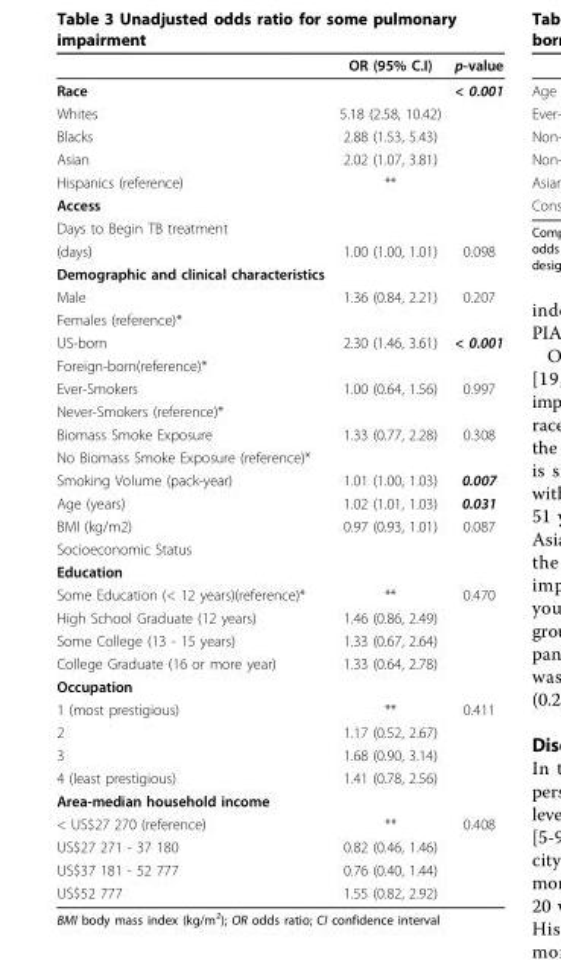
<table><thead><tr><td></td><td>OR (95% C.I)</td><td>p-value</td></tr></thead><tbody><tr><td>Race</td><td></td><td>&lt; 0.001</td></tr><tr><td>Whites</td><td>5.18 (2.58, 10.42)</td><td></td></tr><tr><td>Blacks</td><td>2.88 (1.53, 5.43)</td><td></td></tr><tr><td>Asian</td><td>2.02 (1.07, 3.81)</td><td></td></tr><tr><td>Hispanics (reference)</td><td>**</td><td></td></tr><tr><td colspan="3">Access</td></tr><tr><td colspan="3">Days to Begin TB treatment</td></tr><tr><td>(days)</td><td>1.00 (1.00, 1.01)</td><td>0.098</td></tr><tr><td colspan="3">Demographic and clinical characteristics</td></tr><tr><td>Male</td><td>1.36 (0.84, 2.21)</td><td>0.207</td></tr><tr><td colspan="3">Females (reference)*</td></tr><tr><td>US-born</td><td>2.30 (1.46, 3.61)</td><td>&lt; 0.001</td></tr><tr><td colspan="3">Foreign-born(reference)*</td></tr><tr><td>Ever-Smokers</td><td>1.00 (0.64, 1.56)</td><td>0.997</td></tr><tr><td colspan="3">Never-Smokers (reference)*</td></tr><tr><td>Biomass Smoke Exposure</td><td>1.33 (0.77, 2.28)</td><td>0.308</td></tr><tr><td colspan="3">No Biomass Smoke Exposure (reference)*</td></tr><tr><td>Smoking Volume (pack-year)</td><td>1.01 (1.00, 1.03)</td><td>0.007</td></tr><tr><td>Age (years)</td><td>1.02 (1.01, 1.03)</td><td>0.031</td></tr><tr><td>BMI (kg/m2)</td><td>0.97 (0.93, 1.01)</td><td>0.087</td></tr><tr><td colspan="3">Socioeconomic Status</td></tr><tr><td colspan="3">Education</td></tr><tr><td>Some Education (&lt; 12 years)(reference)*</td><td>**</td><td>0.470</td></tr><tr><td>High School Graduate (12 years)</td><td>1.46 (0.86, 2.49)</td><td></td></tr><tr><td>Some College (13 - 15 years)</td><td>1.33 (0.67, 2.64)</td><td></td></tr><tr><td>College Graduate (16 or more year)</td><td>1.33 (0.64, 2.78)</td><td></td></tr><tr><td colspan="3">Occupation</td></tr><tr><td>1 (most prestigious)</td><td>**</td><td>0.411</td></tr><tr><td>2</td><td>1.17 (0.52, 2.67)</td><td></td></tr><tr><td>3</td><td>1.68 (0.90, 3.14)</td><td></td></tr><tr><td>4 (least prestigious)</td><td>1.41 (0.78, 2.56)</td><td></td></tr><tr><td colspan="3">Area-median household income</td></tr><tr><td>&lt; US$27 270 (reference)</td><td>**</td><td>0.408</td></tr><tr><td>US$27 271 - 37 180</td><td>0.82 (0.46, 1.46)</td><td></td></tr><tr><td>US$37 181 - 52 777</td><td>0.76 (0.40, 1.44)</td><td></td></tr><tr><td>US$52 777</td><td>1.55 (0.82, 2.92)</td><td></td></tr></tbody></table>